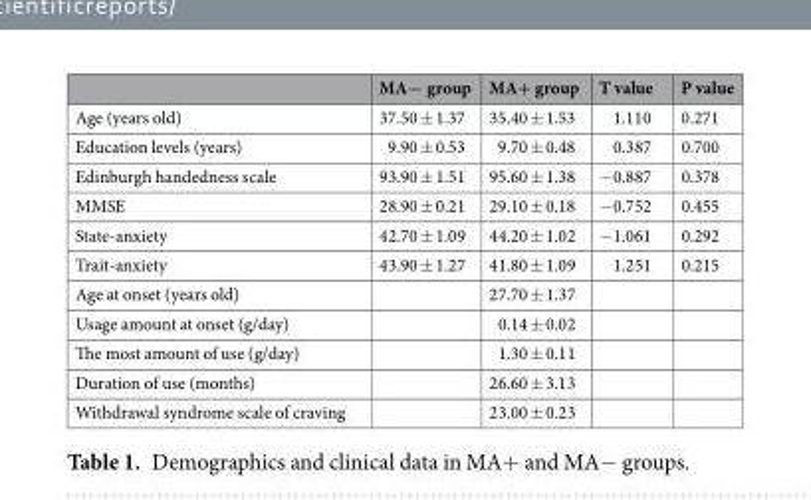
<table><thead><tr><td></td><td>MA− group</td><td>MA+ group</td><td>T value</td><td>P value</td></tr></thead><tbody><tr><td>Age (years old)</td><td>37.50 ± 1.37</td><td>35.40 ± 1.53</td><td>1.110</td><td>0.271</td></tr><tr><td>Education levels (years)</td><td>9.90 ± 0.53</td><td>9.70 ± 0.48</td><td>0.387</td><td>0.700</td></tr><tr><td>Edinburgh handedness scale</td><td>93.90 ± 1.51</td><td>95.60 ± 1.38</td><td>−0.887</td><td>0.378</td></tr><tr><td>MMSE</td><td>28.90 ± 0.21</td><td>29.10 ± 0.18</td><td>−0.752</td><td>0.455</td></tr><tr><td>State-anxiety</td><td>42.70 ± 1.09</td><td>44.20 ± 1.02</td><td>−1.061</td><td>0.292</td></tr><tr><td>Trait-anxiety</td><td>43.90 ± 1.27</td><td>41.80 ± 1.09</td><td>1.251</td><td>0.215</td></tr><tr><td>Age at onset (years old)</td><td></td><td>27.70 ± 1.37</td><td></td><td></td></tr><tr><td>Usage amount at onset (g/day)</td><td></td><td>0.14 ± 0.02</td><td></td><td></td></tr><tr><td>The most amount of use (g/day)</td><td></td><td>1.30 ± 0.11</td><td></td><td></td></tr><tr><td>Duration of use (months)</td><td></td><td>26.60 ± 3.13</td><td></td><td></td></tr><tr><td>Withdrawal syndrome scale of craving</td><td></td><td>23.00 ± 0.23</td><td></td><td></td></tr></tbody></table>